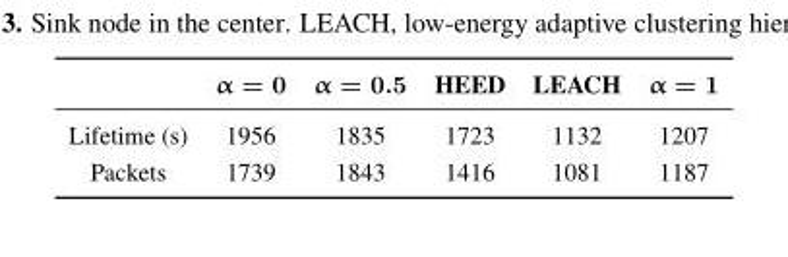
<table><thead><tr><td></td><td>α = 0</td><td>α = 0.5</td><td>HEED</td><td>LEACH</td><td>α = 1</td></tr></thead><tbody><tr><td>Lifetime (s)</td><td>1956</td><td>1835</td><td>1723</td><td>1132</td><td>1207</td></tr><tr><td>Packets</td><td>1739</td><td>1843</td><td>1416</td><td>1081</td><td>1187</td></tr></tbody></table>